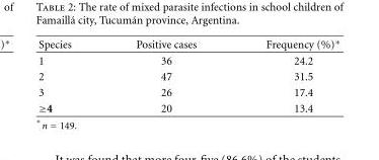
<table><thead><tr><td>Species</td><td>Positive cases</td><td>Frequency (%)∗</td></tr></thead><tbody><tr><td>1</td><td>36</td><td>24.2</td></tr><tr><td>2</td><td>47</td><td>31.5</td></tr><tr><td>3</td><td>26</td><td>17.4</td></tr><tr><td>≥4</td><td>20</td><td>13.4</td></tr></tbody></table>